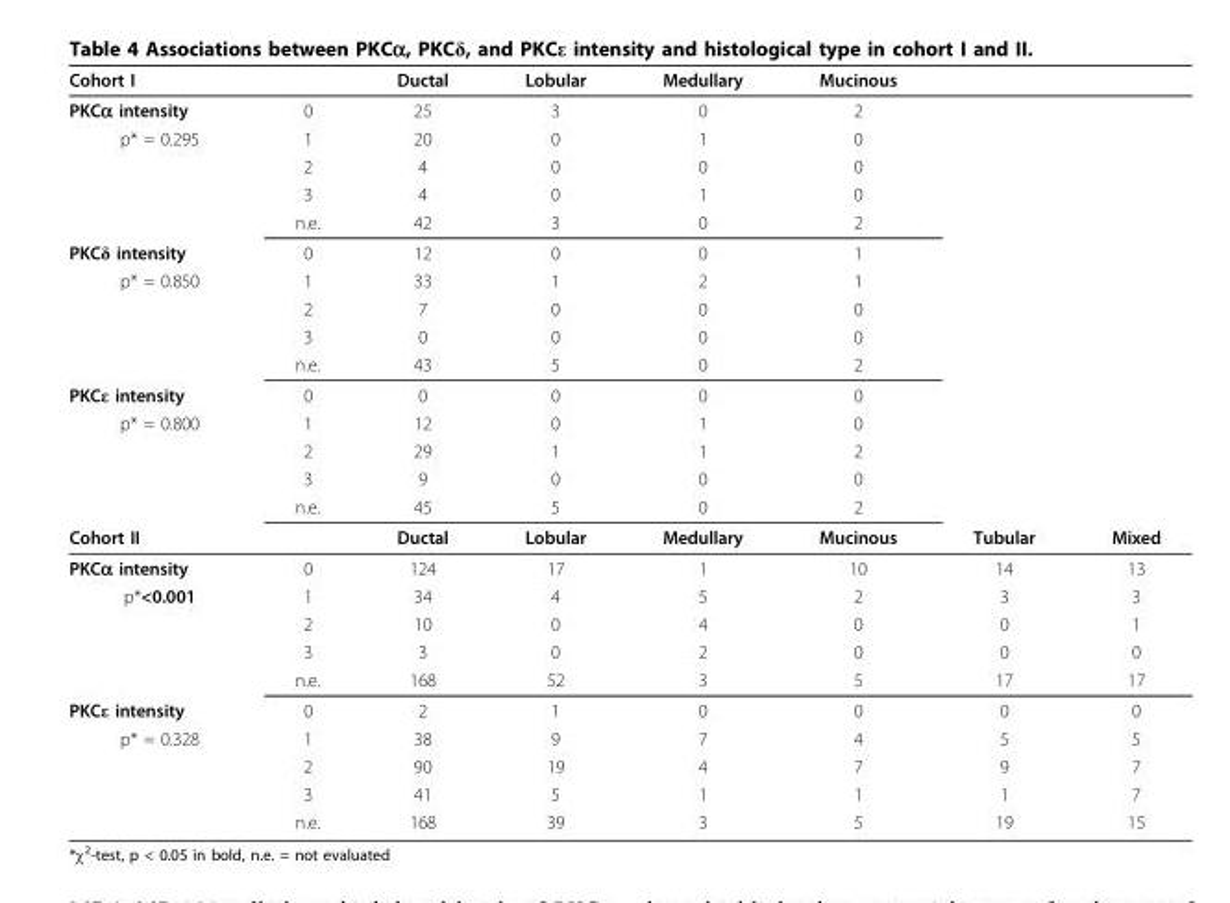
<table><thead><tr><td>Cohort I</td><td></td><td>Ductal</td><td>Lobular</td><td>Medullary</td><td>Mucinous</td><td></td><td></td></tr></thead><tbody><tr><td>PKCα intensity</td><td>0</td><td>25</td><td>3</td><td>0</td><td>2</td><td></td><td></td></tr><tr><td rowspan="4">p* = 0.295</td><td>1</td><td>20</td><td>0</td><td>1</td><td>0</td><td></td><td></td></tr><tr><td>2</td><td>4</td><td>0</td><td>0</td><td>0</td><td></td><td></td></tr><tr><td>3</td><td>4</td><td>0</td><td>1</td><td>0</td><td></td><td></td></tr><tr><td>n.e.</td><td>42</td><td>3</td><td>0</td><td>2</td><td></td><td></td></tr><tr><td>PKCδ intensity</td><td>0</td><td>12</td><td>0</td><td>0</td><td>1</td><td></td><td></td></tr><tr><td rowspan="4">p* = 0.850</td><td>1</td><td>33</td><td>1</td><td>2</td><td>1</td><td></td><td></td></tr><tr><td>2</td><td>7</td><td>0</td><td>0</td><td>0</td><td></td><td></td></tr><tr><td>3</td><td>0</td><td>0</td><td>0</td><td>0</td><td></td><td></td></tr><tr><td>n.e.</td><td>43</td><td>5</td><td>0</td><td>2</td><td></td><td></td></tr><tr><td>PKCε intensity</td><td>0</td><td>0</td><td>0</td><td>0</td><td>0</td><td></td><td></td></tr><tr><td rowspan="4">p* = 0.800</td><td>1</td><td>12</td><td>0</td><td>1</td><td>0</td><td></td><td></td></tr><tr><td>2</td><td>29</td><td>1</td><td>1</td><td>2</td><td></td><td></td></tr><tr><td>3</td><td>9</td><td>0</td><td>0</td><td>0</td><td></td><td></td></tr><tr><td>n.e.</td><td>45</td><td>5</td><td>0</td><td>2</td><td></td><td></td></tr><tr><td>Cohort II</td><td></td><td>Ductal</td><td>Lobular</td><td>Medullary</td><td>Mucinous</td><td>Tubular</td><td>Mixed</td></tr><tr><td>PKCα intensity</td><td>0</td><td>124</td><td>17</td><td>1</td><td>10</td><td>14</td><td>13</td></tr><tr><td rowspan="4">p*&lt;0.001</td><td>1</td><td>34</td><td>4</td><td>5</td><td>2</td><td>3</td><td>3</td></tr><tr><td>2</td><td>10</td><td>0</td><td>4</td><td>0</td><td>0</td><td>1</td></tr><tr><td>3</td><td>3</td><td>0</td><td>2</td><td>0</td><td>0</td><td>0</td></tr><tr><td>n.e.</td><td>168</td><td>52</td><td>3</td><td>5</td><td>17</td><td>17</td></tr><tr><td>PKCε intensity</td><td>0</td><td>2</td><td>1</td><td>0</td><td>0</td><td>0</td><td>0</td></tr><tr><td rowspan="4">p* = 0.328</td><td>1</td><td>38</td><td>9</td><td>7</td><td>4</td><td>5</td><td>5</td></tr><tr><td>2</td><td>90</td><td>19</td><td>4</td><td>7</td><td>9</td><td>7</td></tr><tr><td>3</td><td>41</td><td>5</td><td>1</td><td>1</td><td>1</td><td>7</td></tr><tr><td>n.e.</td><td>168</td><td>39</td><td>3</td><td>5</td><td>19</td><td>15</td></tr></tbody></table>